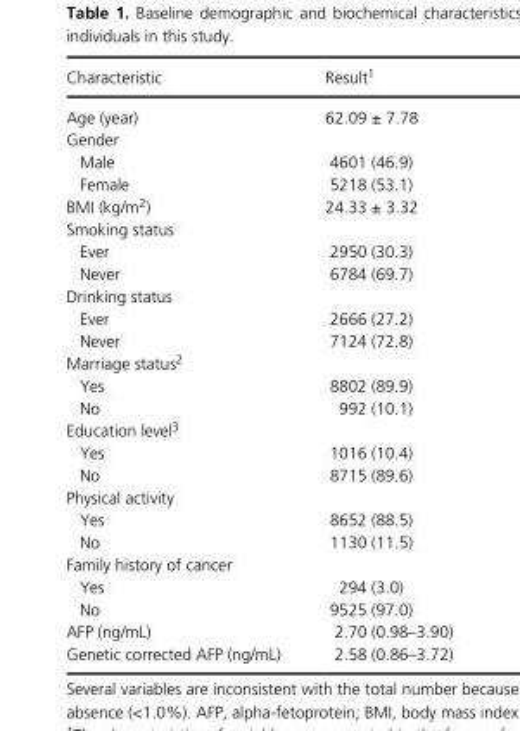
<table><thead><tr><td>Characteristic</td><td>Result1</td></tr></thead><tbody><tr><td>Age (year)</td><td>62.09 ± 7.78</td></tr><tr><td colspan="2">Gender</td></tr><tr><td>Male</td><td>4601 (46.9)</td></tr><tr><td>Female</td><td>5218 (53.1)</td></tr><tr><td>BMI (kg/m<sup>2</sup>)</td><td>24.33 ± 3.32</td></tr><tr><td colspan="2">Smoking status</td></tr><tr><td>Ever</td><td>2950 (30.3)</td></tr><tr><td>Never</td><td>6784 (69.7)</td></tr><tr><td colspan="2">Drinking status</td></tr><tr><td>Ever</td><td>2666 (27.2)</td></tr><tr><td>Never</td><td>7124 (72.8)</td></tr><tr><td colspan="2">Marriage status2</td></tr><tr><td>Yes</td><td>8802 (89.9)</td></tr><tr><td>No</td><td>992 (10.1)</td></tr><tr><td colspan="2">Education level3</td></tr><tr><td>Yes</td><td>1016 (10.4)</td></tr><tr><td>No</td><td>8715 (89.6)</td></tr><tr><td colspan="2">Physical activity</td></tr><tr><td>Yes</td><td>8652 (88.5)</td></tr><tr><td>No</td><td>1130 (11.5)</td></tr><tr><td colspan="2">Family history of cancer</td></tr><tr><td>Yes</td><td>294 (3.0)</td></tr><tr><td>No</td><td>9525 (97.0)</td></tr><tr><td>AFP (ng/mL)</td><td>2.70 (0.98–3.90)</td></tr><tr><td>Genetic corrected AFP (ng/mL)</td><td>2.58 (0.86–3.72)</td></tr></tbody></table>